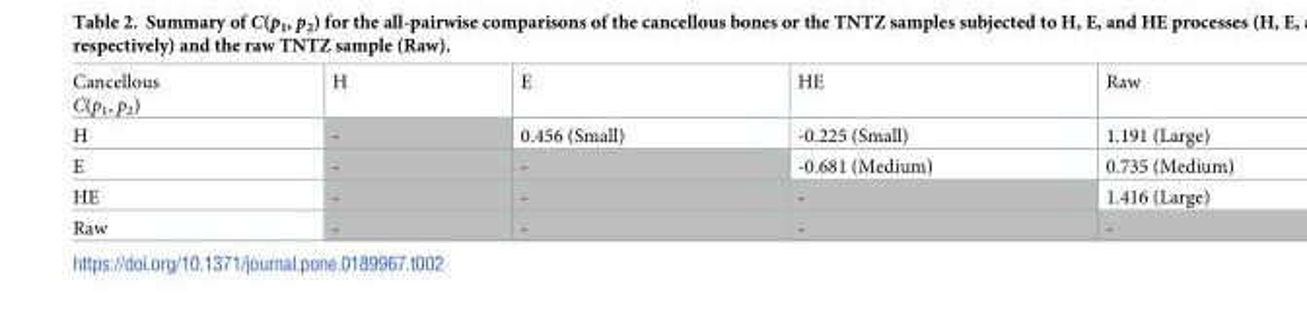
<table><tbody><tr><td>Cancellous C(p<sub>1</sub>, p<sub>2</sub>)</td><td>H</td><td>E</td><td>HE</td><td>Raw</td></tr><tr><td>H</td><td>-</td><td>0.456 (Small)</td><td>-0.225 (Small)</td><td>1.191 (Large)</td></tr><tr><td>E</td><td>-</td><td>-</td><td>-0.681 (Medium)</td><td>0.735 (Medium)</td></tr><tr><td>HE</td><td>-</td><td>-</td><td>-</td><td>1.416 (Large)</td></tr><tr><td>Raw</td><td>-</td><td>-</td><td>-</td><td>-</td></tr></tbody></table>